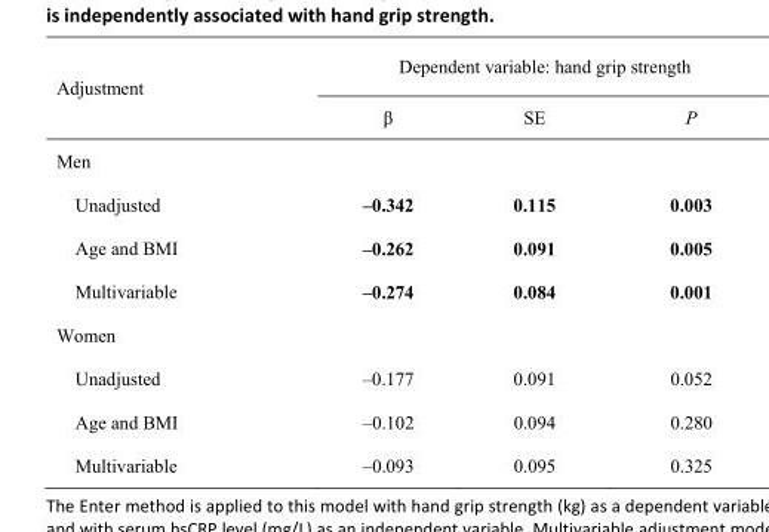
<table><tbody><tr><td rowspan="2">Adjustment</td><td colspan="3">Dependent variable: hand grip strength</td></tr><tr><td>β</td><td>SE</td><td>P</td></tr><tr><td colspan="4">Men</td></tr><tr><td>Unadjusted</td><td>–0.342</td><td>0.115</td><td>0.003</td></tr><tr><td>Age and BMI</td><td>–0.262</td><td>0.091</td><td>0.005</td></tr><tr><td>Multivariable</td><td>–0.274</td><td>0.084</td><td>0.001</td></tr><tr><td colspan="4">Women</td></tr><tr><td>Unadjusted</td><td>–0.177</td><td>0.091</td><td>0.052</td></tr><tr><td>Age and BMI</td><td>–0.102</td><td>0.094</td><td>0.280</td></tr><tr><td>Multivariable</td><td>–0.093</td><td>0.095</td><td>0.325</td></tr></tbody></table>